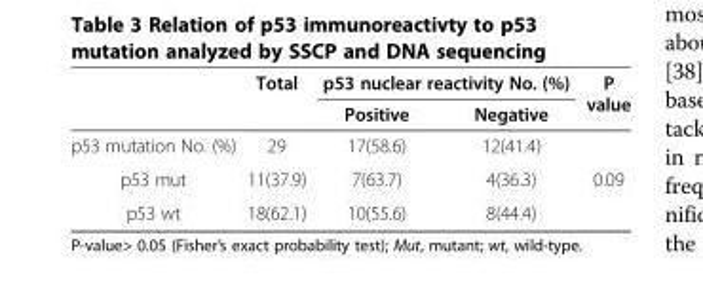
<table><thead><tr><td rowspan="2"></td><td rowspan="2">Total</td><td colspan="2">p53 nuclear reactivity No. (%)</td><td rowspan="2">P value</td></tr><tr><td>Positive</td><td>Negative</td></tr></thead><tbody><tr><td>p53 mutation No. (%)</td><td>29</td><td>17(58.6)</td><td>12(41.4)</td><td></td></tr><tr><td>p53 mut</td><td>11(37.9)</td><td>7(63.7)</td><td>4(36.3)</td><td>0.09</td></tr><tr><td>p53 wt</td><td>18(62.1)</td><td>10(55.6)</td><td>8(44.4)</td><td></td></tr></tbody></table>